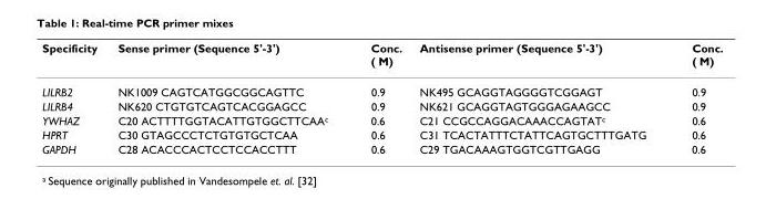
<table><thead><tr><td>Specificity</td><td>Sense primer (Sequence 5&#x27;-3&#x27;)</td><td>Conc. ( M)</td><td>Antisense primer (Sequence 5&#x27;-3&#x27;)</td><td>Conc. ( M)</td></tr></thead><tbody><tr><td>LILRB2</td><td>NK1009 CAGTCATGGCGGCAGTTC</td><td>0.9</td><td>NK495 GCAGGTAGGGGTCGGAGT</td><td>0.9</td></tr><tr><td>LILRB4</td><td>NK620 CTGTGTCAGTCACGGAGCC</td><td>0.9</td><td>NK621 GCAGGTAGTGGGAGAAGCC</td><td>0.9</td></tr><tr><td>YWHAZ</td><td>C20 ACTTTTGGTACATTGTGGCTTCAA<sup>c</sup></td><td>0.6</td><td>C21 CCGCCAGGACAAACCAGTAT<sup>c</sup></td><td>0.6</td></tr><tr><td>HPRT</td><td>C30 GTAGCCCTCTGTGTGCTCAA</td><td>0.6</td><td>C31 TCACTATTTCTATTCAGTGCTTTGATG</td><td>0.6</td></tr><tr><td>GAPDH</td><td>C28 ACACCCACTCCTCCACCTTT</td><td>0.6</td><td>C29 TGACAAAGTGGTCGTTGAGG</td><td>0.6</td></tr></tbody></table>